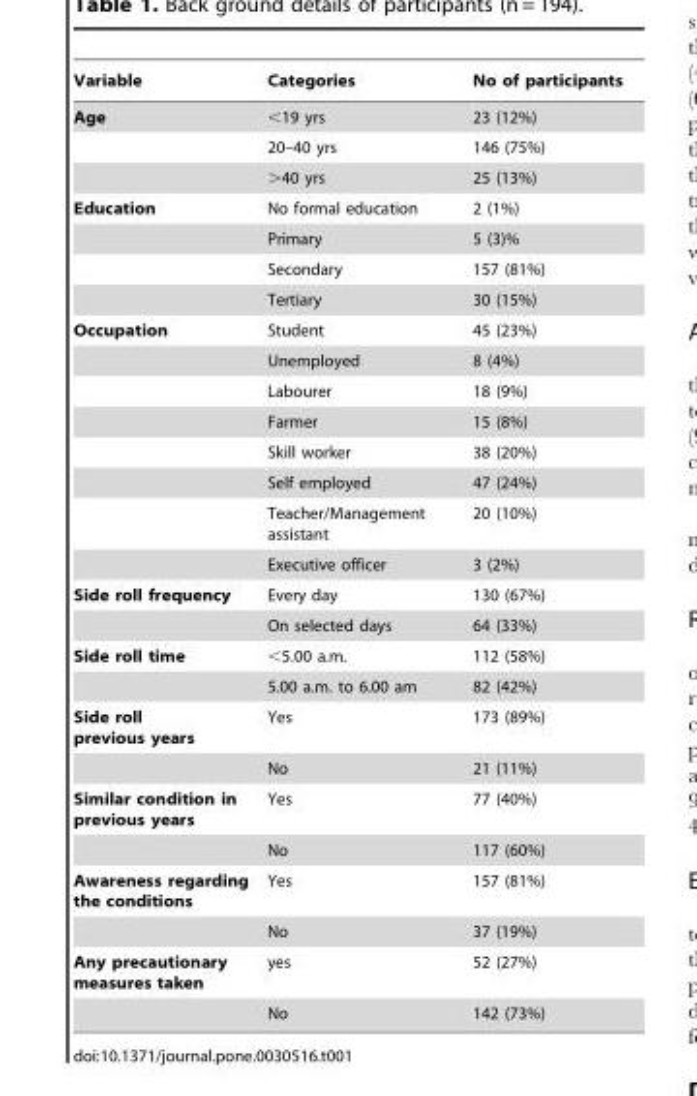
<table><thead><tr><td>Variable</td><td>Categories</td><td>No of participants</td></tr></thead><tbody><tr><td rowspan="3">Age</td><td>&lt;19 yrs</td><td>23 (12%)</td></tr><tr><td>20–40 yrs</td><td>146 (75%)</td></tr><tr><td>&gt;40 yrs</td><td>25 (13%)</td></tr><tr><td rowspan="4">Education</td><td>No formal education</td><td>2 (1%)</td></tr><tr><td>Primary</td><td>5 (3)%</td></tr><tr><td>Secondary</td><td>157 (81%)</td></tr><tr><td>Tertiary</td><td>30 (15%)</td></tr><tr><td rowspan="8">Occupation</td><td>Student</td><td>45 (23%)</td></tr><tr><td>Unemployed</td><td>8 (4%)</td></tr><tr><td>Labourer</td><td>18 (9%)</td></tr><tr><td>Farmer</td><td>15 (8%)</td></tr><tr><td>Skill worker</td><td>38 (20%)</td></tr><tr><td>Self employed</td><td>47 (24%)</td></tr><tr><td>Teacher/Management assistant</td><td>20 (10%)</td></tr><tr><td>Executive officer</td><td>3 (2%)</td></tr><tr><td rowspan="2">Side roll frequency</td><td>Every day</td><td>130 (67%)</td></tr><tr><td>On selected days</td><td>64 (33%)</td></tr><tr><td rowspan="2">Side roll time</td><td>&lt;5.00 a.m.</td><td>112 (58%)</td></tr><tr><td>5.00 a.m. to 6.00 am</td><td>82 (42%)</td></tr><tr><td rowspan="2">Side roll previous years</td><td>Yes</td><td>173 (89%)</td></tr><tr><td>No</td><td>21 (11%)</td></tr><tr><td rowspan="2">Similar condition in previous years</td><td>Yes</td><td>77 (40%)</td></tr><tr><td>No</td><td>117 (60%)</td></tr><tr><td rowspan="2">Awareness regarding the conditions</td><td>Yes</td><td>157 (81%)</td></tr><tr><td>No</td><td>37 (19%)</td></tr><tr><td rowspan="2">Any precautionary measures taken</td><td>yes</td><td>52 (27%)</td></tr><tr><td>No</td><td>142 (73%)</td></tr></tbody></table>